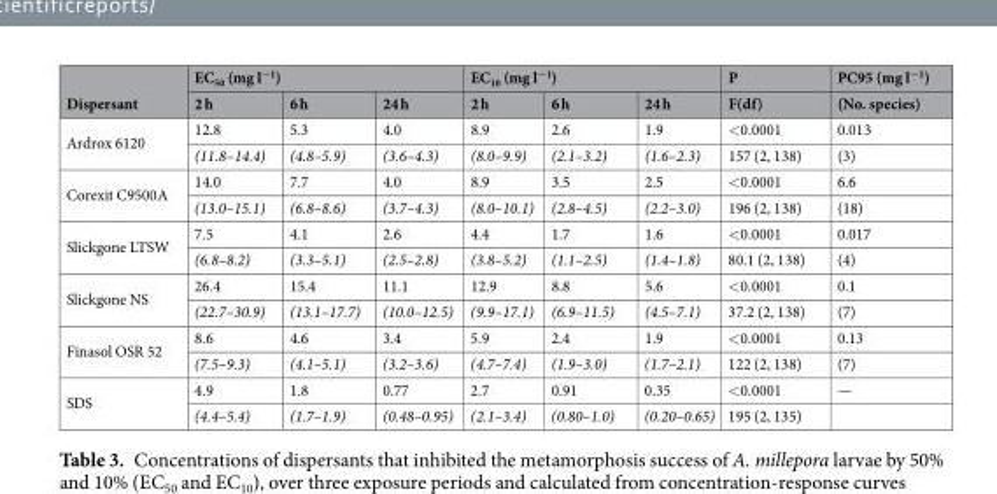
<table><thead><tr><td rowspan="2">Dispersant</td><td colspan="3">EC<sub>50</sub> (mg l<sup>−1</sup>)</td><td colspan="3">EC<sub>10</sub> (mg l<sup>−1</sup>)</td><td rowspan="2">P F(df)</td><td rowspan="2">PC95 (mg l<sup>−1</sup>) (No. species)</td></tr><tr><td>2 h</td><td>6 h</td><td>24 h</td><td>2 h</td><td>6 h</td><td>24 h</td></tr></thead><tbody><tr><td rowspan="2">Ardrox 6120</td><td>12.8</td><td>5.3</td><td>4.0</td><td>8.9</td><td>2.6</td><td>1.9</td><td>&lt;0.0001</td><td>0.013</td></tr><tr><td>(11.8–14.4)</td><td>(4.8–5.9)</td><td>(3.6–4.3)</td><td>(8.0–9.9)</td><td>(2.1–3.2)</td><td>(1.6–2.3)</td><td>157 (2, 138)</td><td>(3)</td></tr><tr><td rowspan="2">Corexit C9500A</td><td>14.0</td><td>7.7</td><td>4.0</td><td>8.9</td><td>3.5</td><td>2.5</td><td>&lt;0.0001</td><td>6.6</td></tr><tr><td>(13.0–15.1)</td><td>(6.8–8.6)</td><td>(3.7–4.3)</td><td>(8.0–10.1)</td><td>(2.8–4.5)</td><td>(2.2–3.0)</td><td>196 (2, 138)</td><td>(18)</td></tr><tr><td rowspan="2">Slickgone LTSW</td><td>7.5</td><td>4.1</td><td>2.6</td><td>4.4</td><td>1.7</td><td>1.6</td><td>&lt;0.0001</td><td>0.017</td></tr><tr><td>(6.8–8.2)</td><td>(3.3–5.1)</td><td>(2.5–2.8)</td><td>(3.8–5.2)</td><td>(1.1–2.5)</td><td>(1.4–1.8)</td><td>80.1 (2, 138)</td><td>(4)</td></tr><tr><td rowspan="2">Slickgone NS</td><td>26.4</td><td>15.4</td><td>11.1</td><td>12.9</td><td>8.8</td><td>5.6</td><td>&lt;0.0001</td><td>0.1</td></tr><tr><td>(22.7–30.9)</td><td>(13.1–17.7)</td><td>(10.0–12.5)</td><td>(9.9–17.1)</td><td>(6.9–11.5)</td><td>(4.5–7.1)</td><td>37.2 (2, 138)</td><td>(7)</td></tr><tr><td rowspan="2">Finasol OSR 52</td><td>8.6</td><td>4.6</td><td>3.4</td><td>5.9</td><td>2.4</td><td>1.9</td><td>&lt;0.0001</td><td>0.13</td></tr><tr><td>(7.5–9.3)</td><td>(4.1–5.1)</td><td>(3.2–3.6)</td><td>(4.7–7.4)</td><td>(1.9–3.0)</td><td>(1.7–2.1)</td><td>122 (2, 138)</td><td>(7)</td></tr><tr><td rowspan="2">SDS</td><td>4.9</td><td>1.8</td><td>0.77</td><td>2.7</td><td>0.91</td><td>0.35</td><td>&lt;0.0001</td><td>—</td></tr><tr><td>(4.4–5.4)</td><td>(1.7–1.9)</td><td>(0.48–0.95)</td><td>(2.1–3.4)</td><td>(0.80–1.0)</td><td>(0.20–0.65)</td><td>195 (2, 135)</td><td></td></tr></tbody></table>